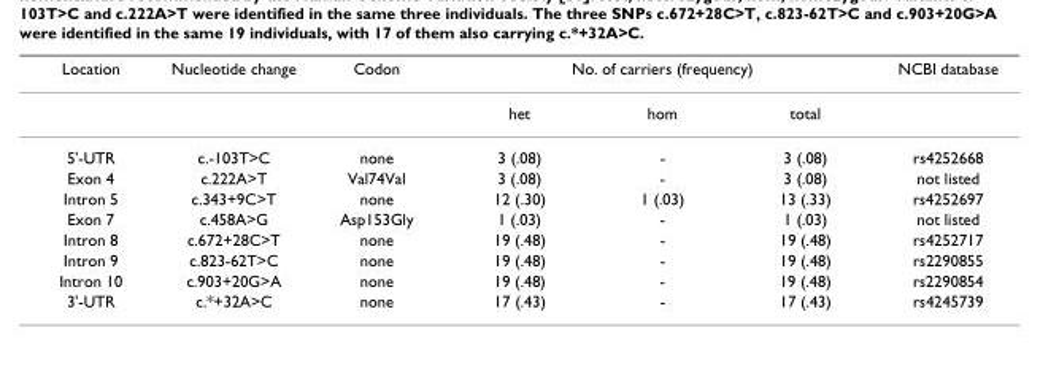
<table><thead><tr><td rowspan="2">Location</td><td rowspan="2">Nucleotide change</td><td rowspan="2">Codon</td><td colspan="3">No. of carriers (frequency)</td><td rowspan="2">NCBI database</td></tr><tr><td>het</td><td>hom</td><td>total</td></tr></thead><tbody><tr><td>5&#x27;-UTR</td><td>c.-103T&gt;C</td><td>none</td><td>3 (.08)</td><td>-</td><td>3 (.08)</td><td>rs4252668</td></tr><tr><td>Exon 4</td><td>c.222A&gt;T</td><td>Val74Val</td><td>3 (.08)</td><td>-</td><td>3 (.08)</td><td>not listed</td></tr><tr><td>Intron 5</td><td>c.343+9C&gt;T</td><td>none</td><td>12 (.30)</td><td>1 (.03)</td><td>13 (.33)</td><td>rs4252697</td></tr><tr><td>Exon 7</td><td>c.458A&gt;G</td><td>Asp153Gly</td><td>1 (.03)</td><td>-</td><td>1 (.03)</td><td>not listed</td></tr><tr><td>Intron 8</td><td>c.672+28C&gt;T</td><td>none</td><td>19 (.48)</td><td>-</td><td>19 (.48)</td><td>rs4252717</td></tr><tr><td>Intron 9</td><td>c.823-62T&gt;C</td><td>none</td><td>19 (.48)</td><td>-</td><td>19 (.48)</td><td>rs2290855</td></tr><tr><td>Intron 10</td><td>c.903+20G&gt;A</td><td>none</td><td>19 (.48)</td><td>-</td><td>19 (.48)</td><td>rs2290854</td></tr><tr><td>3&#x27;-UTR</td><td>c.*+32A&gt;C</td><td>none</td><td>17 (.43)</td><td>-</td><td>17 (.43)</td><td>rs4245739</td></tr></tbody></table>